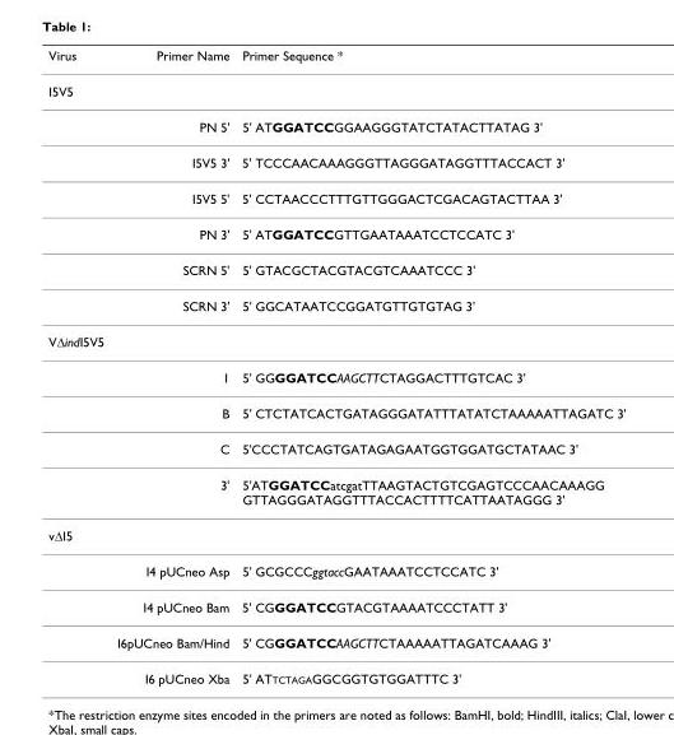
<table><thead><tr><td>Virus</td><td>Primer Name</td><td>Primer Sequence *</td></tr></thead><tbody><tr><td colspan="3">I5V5</td></tr><tr><td></td><td>PN 5&#x27;</td><td>5&#x27; ATGGATCCGGAAGGGTATCTATACTTATAG 3&#x27;</td></tr><tr><td></td><td>I5V5 3&#x27;</td><td>5&#x27; TCCCAACAAAGGGTTAGGGATAGGTTTACCACT 3&#x27;</td></tr><tr><td></td><td>I5V5 5&#x27;</td><td>5&#x27; CCTAACCCTTTGTTGGGACTCGACAGTACTTAA 3&#x27;</td></tr><tr><td></td><td>PN 3&#x27;</td><td>5&#x27; ATGGATCCGTTGAATAAATCCTCCATC 3&#x27;</td></tr><tr><td></td><td>SCRN 5&#x27;</td><td>5&#x27; GTACGCTACGTACGTCAAATCCC 3&#x27;</td></tr><tr><td></td><td>SCRN 3&#x27;</td><td>5&#x27; GGCATAATCCGGATGTTGTGTAG 3&#x27;</td></tr><tr><td colspan="3">VΔindI5V5</td></tr><tr><td></td><td>1</td><td>5&#x27; GGGGATCCAAGCTTCTAGGACTTTGTCAC 3&#x27;</td></tr><tr><td></td><td>B</td><td>5&#x27; CTCTATCACTGATAGGGATATTTATATCTAAAAATTAGATC 3&#x27;</td></tr><tr><td></td><td>C</td><td>5&#x27;CCCTATCAGTGATAGAGAATGGTGGATGCTATAAC 3&#x27;</td></tr><tr><td></td><td>3&#x27;</td><td>5&#x27;ATGGATCCatcgatTTAAGTACTGTCGAGTCCCAACAAAGG GTTAGGGATAGGTTTACCACTTTTCATTAATAGGG 3&#x27;</td></tr><tr><td colspan="3">vΔI5</td></tr><tr><td></td><td>I4 pUCneo Asp</td><td>5&#x27; GCGCCCggtaccGAATAAATCCTCCATC 3&#x27;</td></tr><tr><td></td><td>I4 pUCneo Bam</td><td>5&#x27; CGGGATCCGTACGTAAAATCCCTATT 3&#x27;</td></tr><tr><td></td><td>I6pUCneo Bam/Hind</td><td>5&#x27; CGGGATCCAAGCTTCTAAAAATTAGATCAAAG 3&#x27;</td></tr><tr><td></td><td>I6 pUCneo Xba</td><td>5&#x27; ATTCTAGAGGCGGTGTGGATTTC 3&#x27;</td></tr></tbody></table>